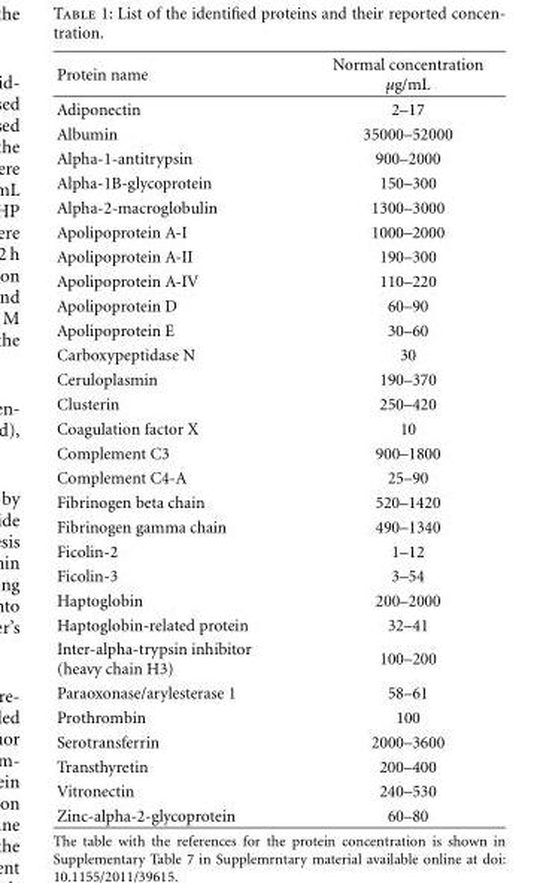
<table><thead><tr><td>Protein name</td><td>Normal concentration μg/mL</td></tr></thead><tbody><tr><td>Adiponectin</td><td>2–17</td></tr><tr><td>Albumin</td><td>35000–52000</td></tr><tr><td>Alpha-1-antitrypsin</td><td>900–2000</td></tr><tr><td>Alpha-1B-glycoprotein</td><td>150–300</td></tr><tr><td>Alpha-2-macroglobulin</td><td>1300–3000</td></tr><tr><td>Apolipoprotein A-I</td><td>1000–2000</td></tr><tr><td>Apolipoprotein A-II</td><td>190–300</td></tr><tr><td>Apolipoprotein A-IV</td><td>110–220</td></tr><tr><td>Apolipoprotein D</td><td>60–90</td></tr><tr><td>Apolipoprotein E</td><td>30–60</td></tr><tr><td>Carboxypeptidase N</td><td>30</td></tr><tr><td>Ceruloplasmin</td><td>190–370</td></tr><tr><td>Clusterin</td><td>250–420</td></tr><tr><td>Coagulation factor X</td><td>10</td></tr><tr><td>Complement C3</td><td>900–1800</td></tr><tr><td>Complement C4-A</td><td>25–90</td></tr><tr><td>Fibrinogen beta chain</td><td>520–1420</td></tr><tr><td>Fibrinogen gamma chain</td><td>490–1340</td></tr><tr><td>Ficolin-2</td><td>1–12</td></tr><tr><td>Ficolin-3</td><td>3–54</td></tr><tr><td>Haptoglobin</td><td>200–2000</td></tr><tr><td>Haptoglobin-related protein</td><td>32–41</td></tr><tr><td>Inter-alpha-trypsin inhibitor (heavy chain H3)</td><td>100–200</td></tr><tr><td>Paraoxonase/arylesterase 1</td><td>58–61</td></tr><tr><td>Prothrombin</td><td>100</td></tr><tr><td>Serotransferrin</td><td>2000–3600</td></tr><tr><td>Transthyretin</td><td>200–400</td></tr><tr><td>Vitronectin</td><td>240–530</td></tr><tr><td>Zinc-alpha-2-glycoprotein</td><td>60–80</td></tr></tbody></table>